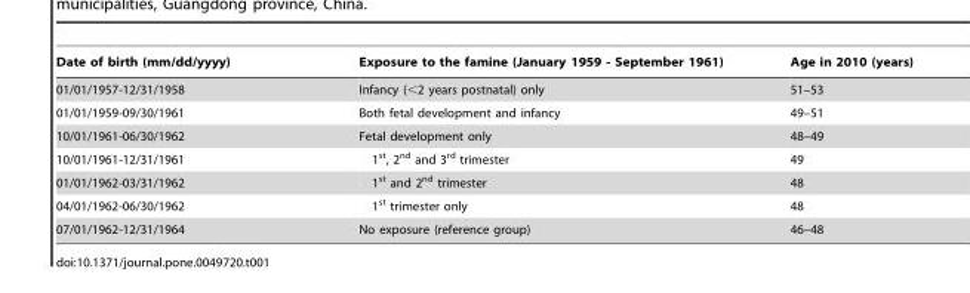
<table><thead><tr><td>Date of birth (mm/dd/yyyy)</td><td>Exposure to the famine (January 1959 - September 1961)</td><td>Age in 2010 (years)</td></tr></thead><tbody><tr><td>01/01/1957-12/31/1958</td><td>Infancy (&lt;2 years postnatal) only</td><td>51–53</td></tr><tr><td>01/01/1959-09/30/1961</td><td>Both fetal development and infancy</td><td>49–51</td></tr><tr><td>10/01/1961-06/30/1962</td><td>Fetal development only</td><td>48–49</td></tr><tr><td>10/01/1961-12/31/1961</td><td>1<sup>st</sup>, 2<sup>nd</sup> and 3<sup>rd</sup> trimester</td><td>49</td></tr><tr><td>01/01/1962-03/31/1962</td><td>1<sup>st</sup> and 2<sup>nd</sup> trimester</td><td>48</td></tr><tr><td>04/01/1962-06/30/1962</td><td>1<sup>st</sup> trimester only</td><td>48</td></tr><tr><td>07/01/1962-12/31/1964</td><td>No exposure (reference group)</td><td>46–48</td></tr></tbody></table>